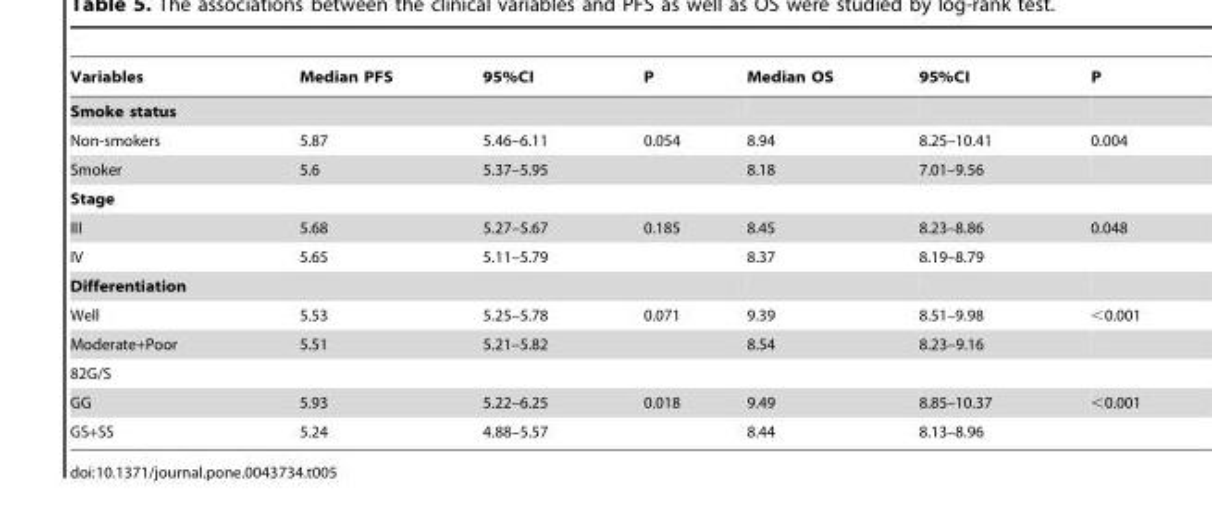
<table><thead><tr><td>Variables</td><td>Median PFS</td><td>95%CI</td><td>P</td><td>Median OS</td><td>95%CI</td><td>P</td></tr></thead><tbody><tr><td colspan="7">Smoke status</td></tr><tr><td>Non-smokers</td><td>5.87</td><td>5.46–6.11</td><td>0.054</td><td>8.94</td><td>8.25–10.41</td><td>0.004</td></tr><tr><td>Smoker</td><td>5.6</td><td>5.37–5.95</td><td></td><td>8.18</td><td>7.01–9.56</td><td></td></tr><tr><td colspan="7">Stage</td></tr><tr><td>III</td><td>5.68</td><td>5.27–5.67</td><td>0.185</td><td>8.45</td><td>8.23–8.86</td><td>0.048</td></tr><tr><td>IV</td><td>5.65</td><td>5.11–5.79</td><td></td><td>8.37</td><td>8.19–8.79</td><td></td></tr><tr><td colspan="7">Differentiation</td></tr><tr><td>Well</td><td>5.53</td><td>5.25–5.78</td><td>0.071</td><td>9.39</td><td>8.51–9.98</td><td>&lt;0.001</td></tr><tr><td>Moderate+Poor</td><td>5.51</td><td>5.21–5.82</td><td></td><td>8.54</td><td>8.23–9.16</td><td></td></tr><tr><td colspan="7">82G/S</td></tr><tr><td>GG</td><td>5.93</td><td>5.22–6.25</td><td>0.018</td><td>9.49</td><td>8.85–10.37</td><td>&lt;0.001</td></tr><tr><td>GS+SS</td><td>5.24</td><td>4.88–5.57</td><td></td><td>8.44</td><td>8.13–8.96</td><td></td></tr></tbody></table>